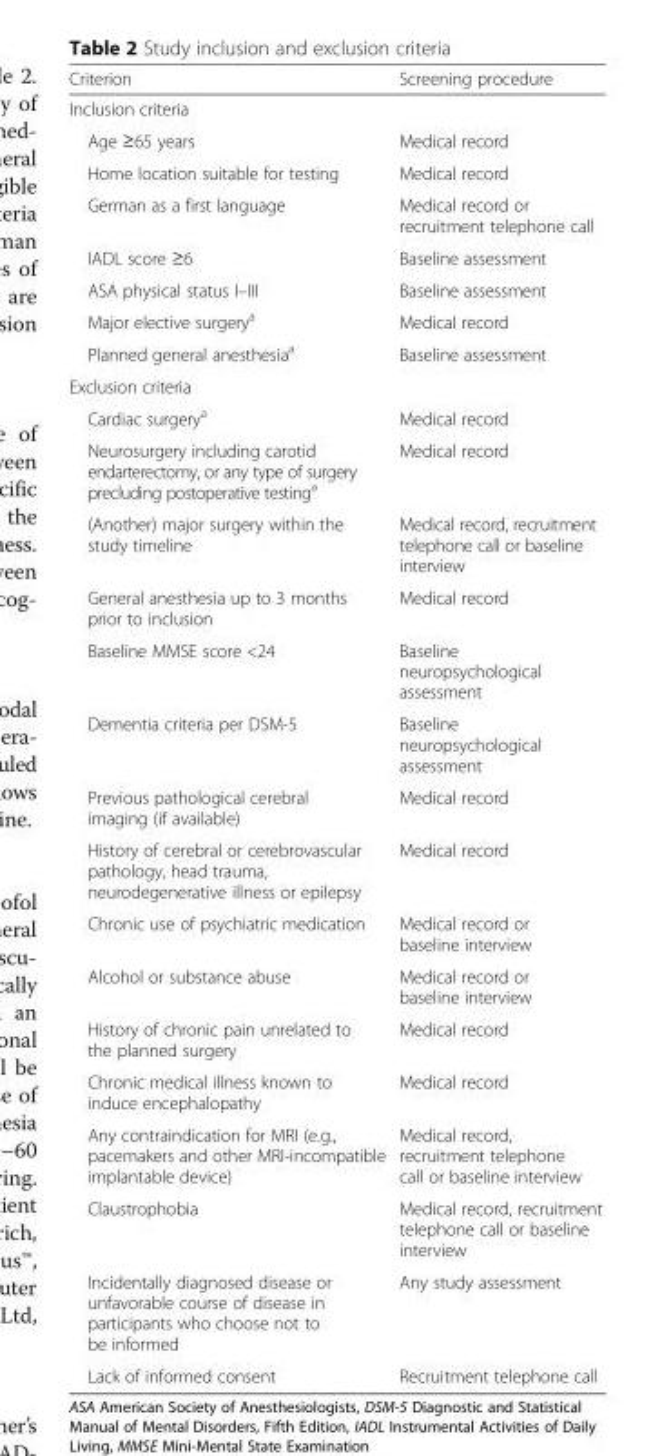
<table><thead><tr><td>Criterion</td><td>Screening procedure</td></tr></thead><tbody><tr><td colspan="2">Inclusion criteria</td></tr><tr><td>Age ≥65 years</td><td>Medical record</td></tr><tr><td>Home location suitable for testing</td><td>Medical record</td></tr><tr><td>German as a first language</td><td>Medical record or recruitment telephone call</td></tr><tr><td>IADL score ≥6</td><td>Baseline assessment</td></tr><tr><td>ASA physical status I–III</td><td>Baseline assessment</td></tr><tr><td>Major elective surgery<sup>a</sup></td><td>Medical record</td></tr><tr><td>Planned general anesthesia<sup>a</sup></td><td>Baseline assessment</td></tr><tr><td colspan="2">Exclusion criteria</td></tr><tr><td>Cardiac surgery<sup>a</sup></td><td>Medical record</td></tr><tr><td>Neurosurgery including carotid endarterectomy, or any type of surgery precluding postoperative testing<sup>a</sup></td><td>Medical record</td></tr><tr><td>(Another) major surgery within the study timeline</td><td>Medical record, recruitment telephone call or baseline interview</td></tr><tr><td>General anesthesia up to 3 months prior to inclusion</td><td>Medical record</td></tr><tr><td>Baseline MMSE score &lt;24</td><td>Baseline neuropsychological assessment</td></tr><tr><td>Dementia criteria per DSM-5</td><td>Baseline neuropsychological assessment</td></tr><tr><td>Previous pathological cerebral imaging (if available)</td><td>Medical record</td></tr><tr><td>History of cerebral or cerebrovascular pathology, head trauma, neurodegenerative illness or epilepsy</td><td>Medical record</td></tr><tr><td>Chronic use of psychiatric medication</td><td>Medical record or baseline interview</td></tr><tr><td>Alcohol or substance abuse</td><td>Medical record or baseline interview</td></tr><tr><td>History of chronic pain unrelated to the planned surgery</td><td>Medical record</td></tr><tr><td>Chronic medical illness known to induce encephalopathy</td><td>Medical record</td></tr><tr><td>Any contraindication for MRI (e.g., pacemakers and other MRI-incompatible implantable device)</td><td>Medical record, recruitment telephone call or baseline interview</td></tr><tr><td>Claustrophobia</td><td>Medical record, recruitment telephone call or baseline interview</td></tr><tr><td>Incidentally diagnosed disease or unfavorable course of disease in participants who choose not to be informed</td><td>Any study assessment</td></tr><tr><td>Lack of informed consent</td><td>Recruitment telephone call</td></tr></tbody></table>